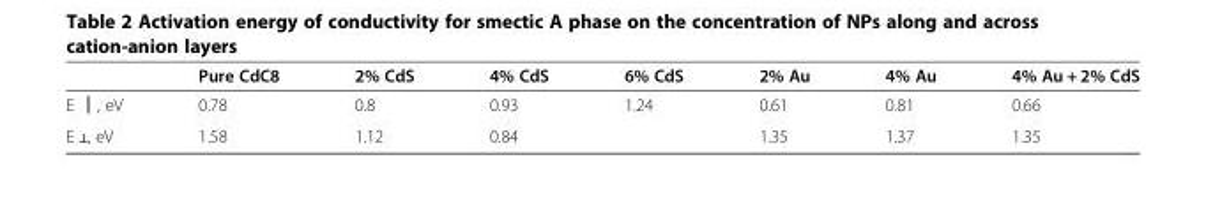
<table><thead><tr><td></td><td>Pure CdC8</td><td>2% CdS</td><td>4% CdS</td><td>6% CdS</td><td>2% Au</td><td>4% Au</td><td>4% Au + 2% CdS</td></tr></thead><tbody><tr><td>Е ║, eV</td><td>0.78</td><td>0.8</td><td>0.93</td><td>1.24</td><td>0.61</td><td>0.81</td><td>0.66</td></tr><tr><td>Е <sub>┴</sub>, eV</td><td>1.58</td><td>1.12</td><td>0.84</td><td></td><td>1.35</td><td>1.37</td><td>1.35</td></tr></tbody></table>